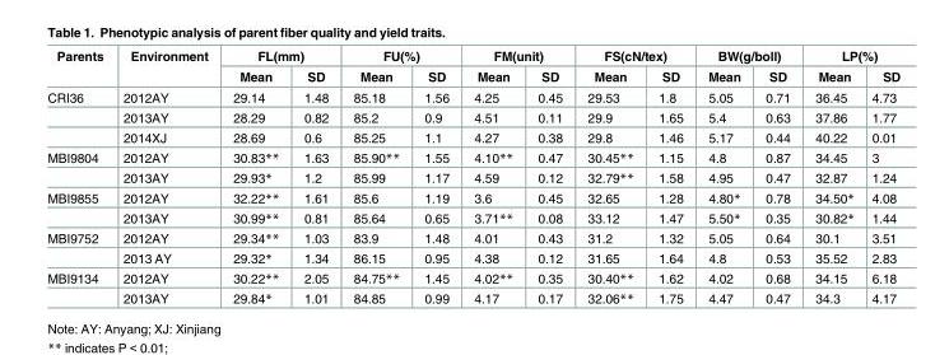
<table><thead><tr><td rowspan="2">Parents</td><td rowspan="2">Environment</td><td colspan="2">FL(mm)</td><td colspan="2">FU(%)</td><td colspan="2">FM(unit)</td><td colspan="2">FS(cN/tex)</td><td colspan="2">BW(g/boll)</td><td colspan="2">LP(%)</td></tr><tr><td>Mean</td><td>SD</td><td>Mean</td><td>SD</td><td>Mean</td><td>SD</td><td>Mean</td><td>SD</td><td>Mean</td><td>SD</td><td>Mean</td><td>SD</td></tr></thead><tbody><tr><td rowspan="3">CRI36</td><td>2012AY</td><td>29.14</td><td>1.48</td><td>85.18</td><td>1.56</td><td>4.25</td><td>0.45</td><td>29.53</td><td>1.8</td><td>5.05</td><td>0.71</td><td>36.45</td><td>4.73</td></tr><tr><td>2013AY</td><td>28.29</td><td>0.82</td><td>85.2</td><td>0.9</td><td>4.51</td><td>0.11</td><td>29.9</td><td>1.65</td><td>5.4</td><td>0.63</td><td>37.86</td><td>1.77</td></tr><tr><td>2014XJ</td><td>28.69</td><td>0.6</td><td>85.25</td><td>1.1</td><td>4.27</td><td>0.38</td><td>29.8</td><td>1.46</td><td>5.17</td><td>0.44</td><td>40.22</td><td>0.01</td></tr><tr><td rowspan="2">MBI9804</td><td>2012AY</td><td>30.83**</td><td>1.63</td><td>85.90**</td><td>1.55</td><td>4.10**</td><td>0.47</td><td>30.45**</td><td>1.15</td><td>4.8</td><td>0.87</td><td>34.45</td><td>3</td></tr><tr><td>2013AY</td><td>29.93*</td><td>1.2</td><td>85.99</td><td>1.17</td><td>4.59</td><td>0.12</td><td>32.79**</td><td>1.58</td><td>4.95</td><td>0.47</td><td>32.87</td><td>1.24</td></tr><tr><td rowspan="2">MBI9855</td><td>2012AY</td><td>32.22**</td><td>1.61</td><td>85.6</td><td>1.19</td><td>3.6</td><td>0.45</td><td>32.65</td><td>1.28</td><td>4.80*</td><td>0.78</td><td>34.50*</td><td>4.08</td></tr><tr><td>2013AY</td><td>30.99**</td><td>0.81</td><td>85.64</td><td>0.65</td><td>3.71**</td><td>0.08</td><td>33.12</td><td>1.47</td><td>5.50*</td><td>0.35</td><td>30.82*</td><td>1.44</td></tr><tr><td rowspan="2">MBI9752</td><td>2012AY</td><td>29.34**</td><td>1.03</td><td>83.9</td><td>1.48</td><td>4.01</td><td>0.43</td><td>31.2</td><td>1.32</td><td>5.05</td><td>0.64</td><td>30.1</td><td>3.51</td></tr><tr><td>2013 AY</td><td>29.32*</td><td>1.34</td><td>86.15</td><td>0.95</td><td>4.38</td><td>0.12</td><td>31.65</td><td>1.64</td><td>4.8</td><td>0.53</td><td>35.52</td><td>2.83</td></tr><tr><td rowspan="2">MBI9134</td><td>2012AY</td><td>30.22**</td><td>2.05</td><td>84.75**</td><td>1.45</td><td>4.02**</td><td>0.35</td><td>30.40**</td><td>1.62</td><td>4.02</td><td>0.68</td><td>34.15</td><td>6.18</td></tr><tr><td>2013AY</td><td>29.84*</td><td>1.01</td><td>84.85</td><td>0.99</td><td>4.17</td><td>0.17</td><td>32.06**</td><td>1.75</td><td>4.47</td><td>0.47</td><td>34.3</td><td>4.17</td></tr></tbody></table>